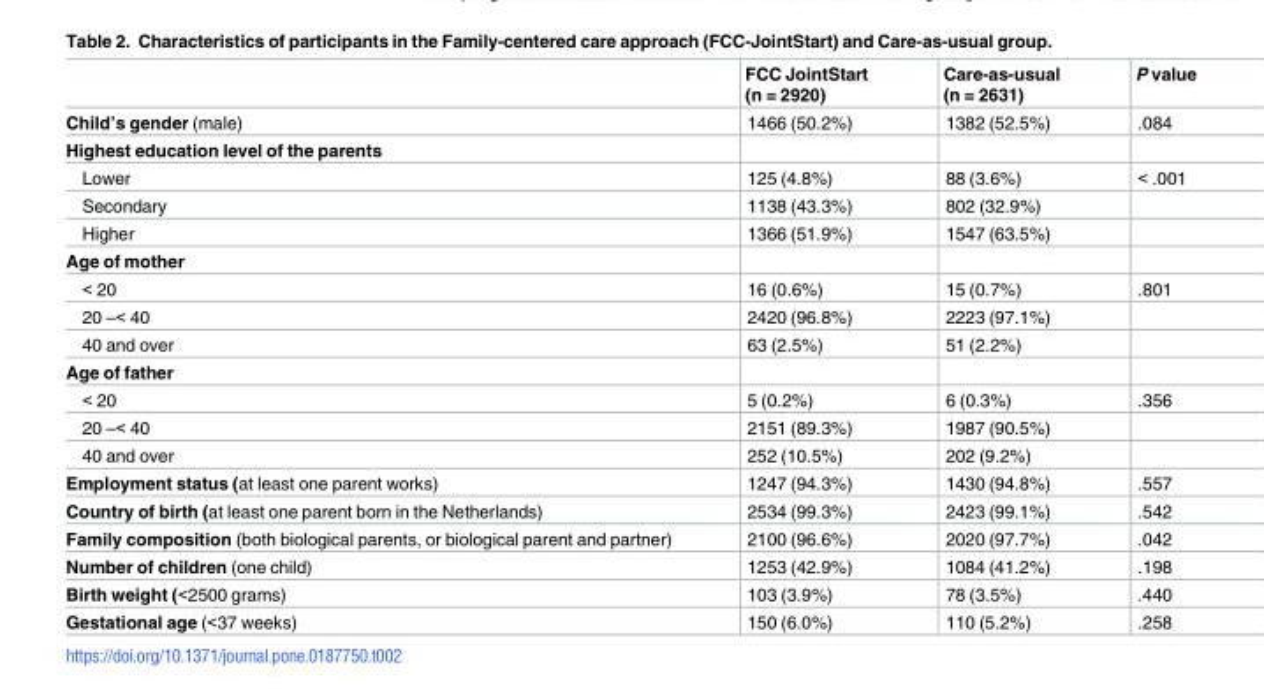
<table><thead><tr><td></td><td>FCC JointStart (n = 2920)</td><td>Care-as-usual (n = 2631)</td><td>P value</td></tr></thead><tbody><tr><td>Child’s gender (male)</td><td>1466 (50.2%)</td><td>1382 (52.5%)</td><td>.084</td></tr><tr><td colspan="4">Highest education level of the parents</td></tr><tr><td>Lower</td><td>125 (4.8%)</td><td>88 (3.6%)</td><td>&lt; .001</td></tr><tr><td>Secondary</td><td>1138 (43.3%)</td><td>802 (32.9%)</td><td></td></tr><tr><td>Higher</td><td>1366 (51.9%)</td><td>1547 (63.5%)</td><td></td></tr><tr><td colspan="4">Age of mother</td></tr><tr><td>&lt; 20</td><td>16 (0.6%)</td><td>15 (0.7%)</td><td>.801</td></tr><tr><td>20 –&lt; 40</td><td>2420 (96.8%)</td><td>2223 (97.1%)</td><td></td></tr><tr><td>40 and over</td><td>63 (2.5%)</td><td>51 (2.2%)</td><td></td></tr><tr><td colspan="4">Age of father</td></tr><tr><td>&lt; 20</td><td>5 (0.2%)</td><td>6 (0.3%)</td><td>.356</td></tr><tr><td>20 –&lt; 40</td><td>2151 (89.3%)</td><td>1987 (90.5%)</td><td></td></tr><tr><td>40 and over</td><td>252 (10.5%)</td><td>202 (9.2%)</td><td></td></tr><tr><td>Employment status (at least one parent works)</td><td>1247 (94.3%)</td><td>1430 (94.8%)</td><td>.557</td></tr><tr><td>Country of birth (at least one parent born in the Netherlands)</td><td>2534 (99.3%)</td><td>2423 (99.1%)</td><td>.542</td></tr><tr><td>Family composition (both biological parents, or biological parent and partner)</td><td>2100 (96.6%)</td><td>2020 (97.7%)</td><td>.042</td></tr><tr><td>Number of children (one child)</td><td>1253 (42.9%)</td><td>1084 (41.2%)</td><td>.198</td></tr><tr><td>Birth weight (&lt;2500 grams)</td><td>103 (3.9%)</td><td>78 (3.5%)</td><td>.440</td></tr><tr><td>Gestational age (&lt;37 weeks)</td><td>150 (6.0%)</td><td>110 (5.2%)</td><td>.258</td></tr></tbody></table>